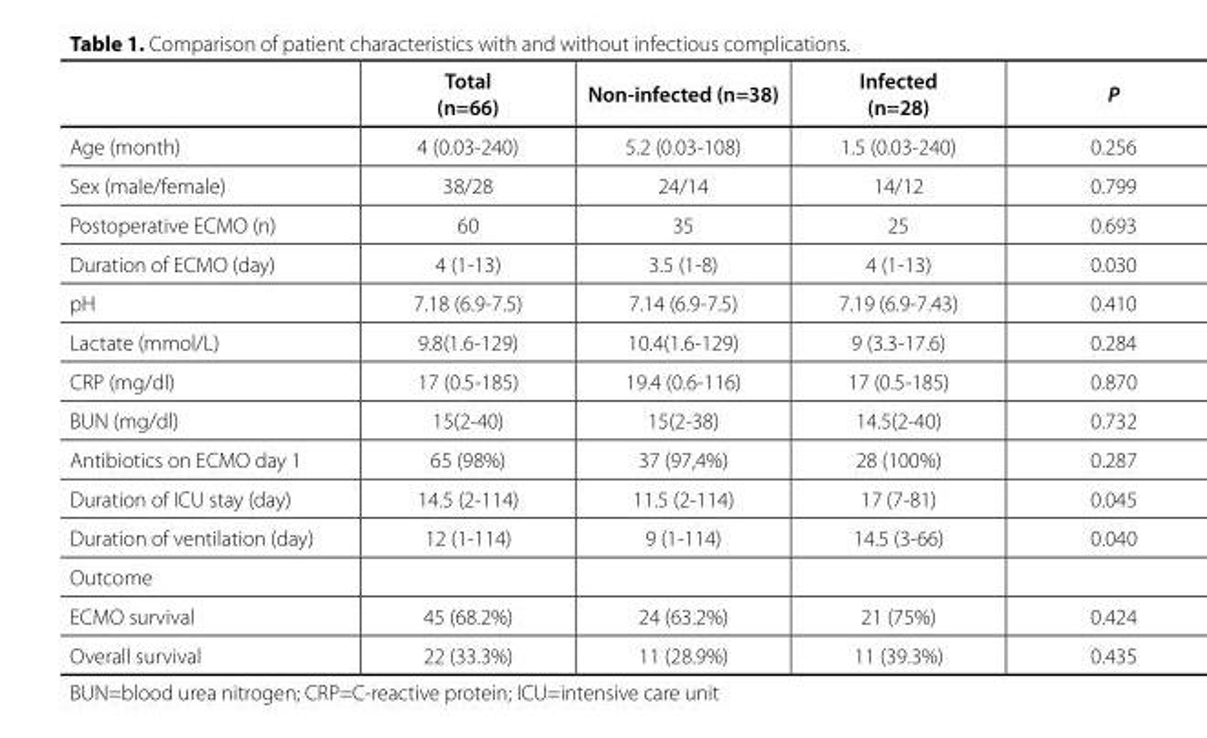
<table><thead><tr><td></td><td>Total (n=66)</td><td>Non-infected (n=38)</td><td>Infected (n=28)</td><td>P</td></tr></thead><tbody><tr><td>Age (month)</td><td>4 (0.03-240)</td><td>5.2 (0.03-108)</td><td>1.5 (0.03-240)</td><td>0.256</td></tr><tr><td>Sex (male/female)</td><td>38/28</td><td>24/14</td><td>14/12</td><td>0.799</td></tr><tr><td>Postoperative ECMO (n)</td><td>60</td><td>35</td><td>25</td><td>0.693</td></tr><tr><td>Duration of ECMO (day)</td><td>4 (1-13)</td><td>3.5 (1-8)</td><td>4 (1-13)</td><td>0.030</td></tr><tr><td>pH</td><td>7.18 (6.9-7.5)</td><td>7.14 (6.9-7.5)</td><td>7.19 (6.9-7.43)</td><td>0.410</td></tr><tr><td>Lactate (mmol/L)</td><td>9.8(1.6-129)</td><td>10.4(1.6-129)</td><td>9 (3.3-17.6)</td><td>0.284</td></tr><tr><td>CRP (mg/dl)</td><td>17 (0.5-185)</td><td>19.4 (0.6-116)</td><td>17 (0.5-185)</td><td>0.870</td></tr><tr><td>BUN (mg/dl)</td><td>15(2-40)</td><td>15(2-38)</td><td>14.5(2-40)</td><td>0.732</td></tr><tr><td>Antibiotics on ECMO day 1</td><td>65 (98%)</td><td>37 (97,4%)</td><td>28 (100%)</td><td>0.287</td></tr><tr><td>Duration of ICU stay (day)</td><td>14.5 (2-114)</td><td>11.5 (2-114)</td><td>17 (7-81)</td><td>0.045</td></tr><tr><td>Duration of ventilation (day)</td><td>12 (1-114)</td><td>9 (1-114)</td><td>14.5 (3-66)</td><td>0.040</td></tr><tr><td colspan="5">Outcome</td></tr><tr><td>ECMO survival</td><td>45 (68.2%)</td><td>24 (63.2%)</td><td>21 (75%)</td><td>0.424</td></tr><tr><td>Overall survival</td><td>22 (33.3%)</td><td>11 (28.9%)</td><td>11 (39.3%)</td><td>0.435</td></tr></tbody></table>